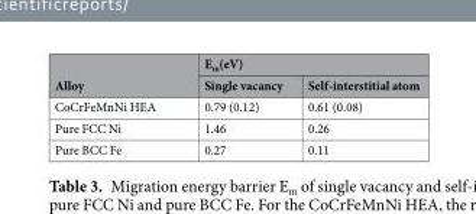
<table><thead><tr><td rowspan="2">Alloy</td><td colspan="2">E<sub>m</sub>(eV)</td></tr><tr><td>Single vacancy</td><td>Self-interstitial atom</td></tr></thead><tbody><tr><td>CoCrFeMnNi HEA</td><td>0.79 (0.12)</td><td>0.61 (0.08)</td></tr><tr><td>Pure FCC Ni</td><td>1.46</td><td>0.26</td></tr><tr><td>Pure BCC Fe</td><td>0.27</td><td>0.11</td></tr></tbody></table>